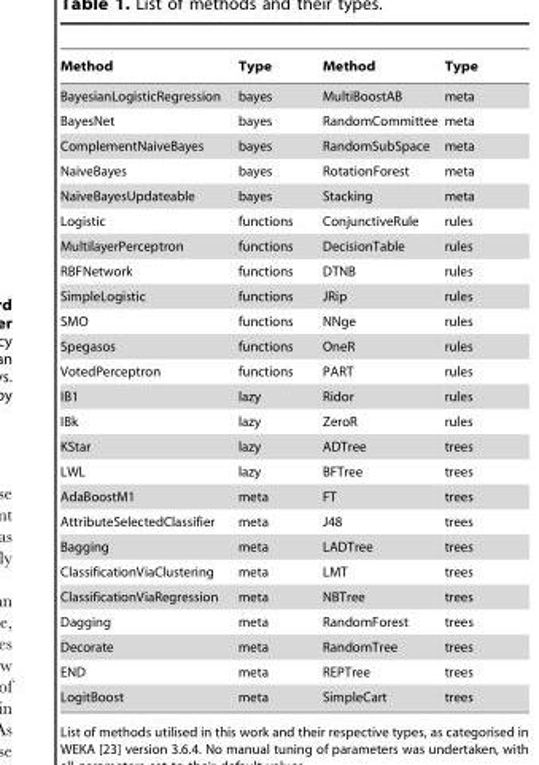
<table><thead><tr><td>Method</td><td>Type</td><td>Method</td><td>Type</td></tr></thead><tbody><tr><td>BayesianLogisticRegression</td><td>bayes</td><td>MultiBoostAB</td><td>meta</td></tr><tr><td>BayesNet</td><td>bayes</td><td>RandomCommittee</td><td>meta</td></tr><tr><td>ComplementNaiveBayes</td><td>bayes</td><td>RandomSubSpace</td><td>meta</td></tr><tr><td>NaiveBayes</td><td>bayes</td><td>RotationForest</td><td>meta</td></tr><tr><td>NaiveBayesUpdateable</td><td>bayes</td><td>Stacking</td><td>meta</td></tr><tr><td>Logistic</td><td>functions</td><td>ConjunctiveRule</td><td>rules</td></tr><tr><td>MultilayerPerceptron</td><td>functions</td><td>DecisionTable</td><td>rules</td></tr><tr><td>RBFNetwork</td><td>functions</td><td>DTNB</td><td>rules</td></tr><tr><td>SimpleLogistic</td><td>functions</td><td>JRip</td><td>rules</td></tr><tr><td>SMO</td><td>functions</td><td>NNge</td><td>rules</td></tr><tr><td>Spegasos</td><td>functions</td><td>OneR</td><td>rules</td></tr><tr><td>VotedPerceptron</td><td>functions</td><td>PART</td><td>rules</td></tr><tr><td>IB1</td><td>lazy</td><td>Ridor</td><td>rules</td></tr><tr><td>IBk</td><td>lazy</td><td>ZeroR</td><td>rules</td></tr><tr><td>KStar</td><td>lazy</td><td>ADTree</td><td>trees</td></tr><tr><td>LWL</td><td>lazy</td><td>BFTree</td><td>trees</td></tr><tr><td>AdaBoostM1</td><td>meta</td><td>FT</td><td>trees</td></tr><tr><td>AttributeSelectedClassifier</td><td>meta</td><td>J48</td><td>trees</td></tr><tr><td>Bagging</td><td>meta</td><td>LADTree</td><td>trees</td></tr><tr><td>ClassificationViaClustering</td><td>meta</td><td>LMT</td><td>trees</td></tr><tr><td>ClassificationViaRegression</td><td>meta</td><td>NBTree</td><td>trees</td></tr><tr><td>Dagging</td><td>meta</td><td>RandomForest</td><td>trees</td></tr><tr><td>Decorate</td><td>meta</td><td>RandomTree</td><td>trees</td></tr><tr><td>END</td><td>meta</td><td>REPTree</td><td>trees</td></tr><tr><td>LogitBoost</td><td>meta</td><td>SimpleCart</td><td>trees</td></tr></tbody></table>